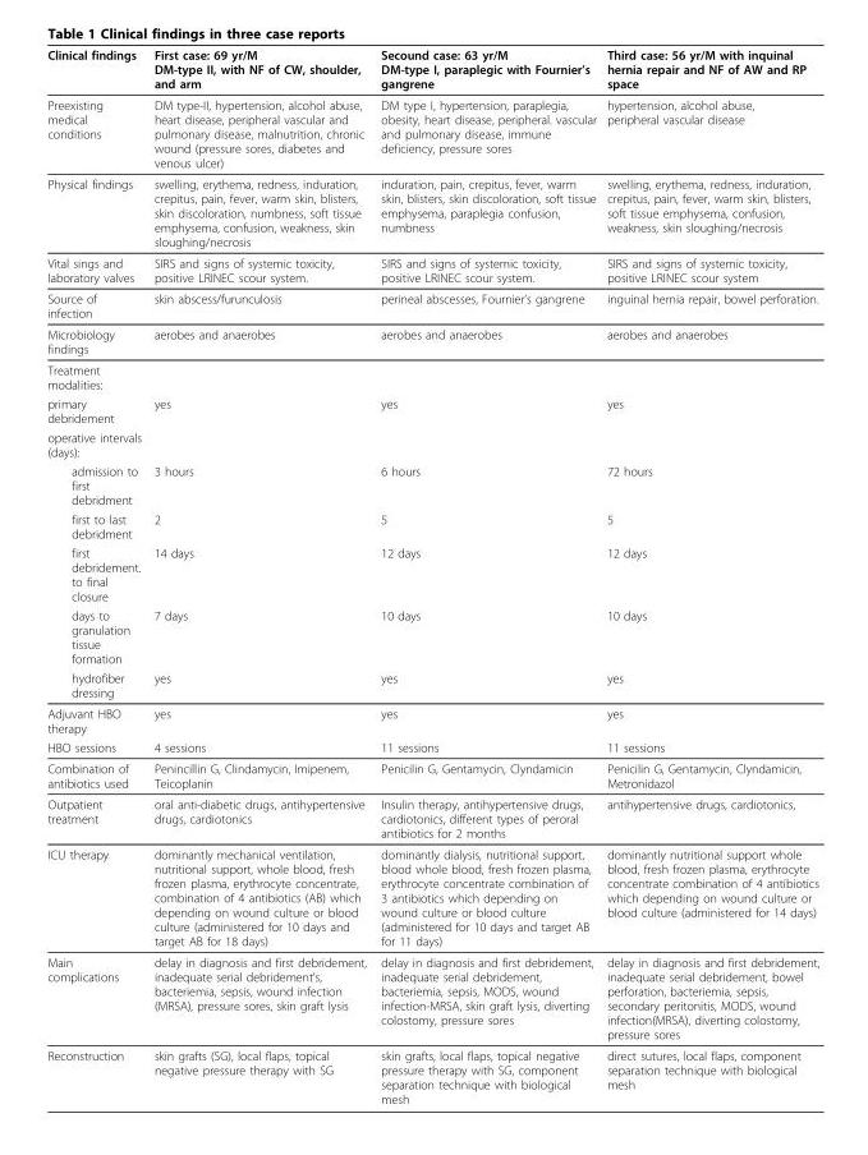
<table><thead><tr><td>Clinical findings</td><td>First case: 69 yr/M DM-type II, with NF of CW, shoulder, and arm</td><td>Secound case: 63 yr/M DM-type I, paraplegic with Fournier’s gangrene</td><td>Third case: 56 yr/M with inquinal hernia repair and NF of AW and RP space</td></tr></thead><tbody><tr><td>Preexisting medical conditions</td><td>DM type-II, hypertension, alcohol abuse, heart disease, peripheral vascular and pulmonary disease, malnutrition, chronic wound (pressure sores, diabetes and venous ulcer)</td><td>DM type I, hypertension, paraplegia, obesity, heart disease, peripheral. vascular and pulmonary disease, immune deficiency, pressure sores</td><td>hypertension, alcohol abuse, peripheral vascular disease</td></tr><tr><td>Physical findings</td><td>swelling, erythema, redness, induration, crepitus, pain, fever, warm skin, blisters, skin discoloration, numbness, soft tissue emphysema, confusion, weakness, skin sloughing/necrosis</td><td>induration, pain, crepitus, fever, warm skin, blisters, skin discoloration, soft tissue emphysema, paraplegia confusion, numbness</td><td>swelling, erythema, redness, induration, crepitus, pain, fever, warm skin, blisters, soft tissue emphysema, confusion, weakness, skin sloughing/necrosis</td></tr><tr><td>Vital sings and laboratory valves</td><td>SIRS and signs of systemic toxicity, positive LRINEC scour system.</td><td>SIRS and signs of systemic toxicity, positive LRINEC scour system.</td><td>SIRS and signs of systemic toxicity, positive LRINEC scour system</td></tr><tr><td>Source of infection</td><td>skin abscess/furunculosis</td><td>perineal abscesses, Fournier’s gangrene</td><td>inguinal hernia repair, bowel perforation.</td></tr><tr><td>Microbiology findings</td><td>aerobes and anaerobes</td><td>aerobes and anaerobes</td><td>aerobes and anaerobes</td></tr><tr><td colspan="4">Treatment modalities:</td></tr><tr><td>primary debridement</td><td>yes</td><td>yes</td><td>yes</td></tr><tr><td colspan="4">operative intervals (days):</td></tr><tr><td>admission to first debridment</td><td>3 hours</td><td>6 hours</td><td>72 hours</td></tr><tr><td>first to last debridment</td><td>2</td><td>5</td><td>5</td></tr><tr><td>first debridement. to final closure</td><td>14 days</td><td>12 days</td><td>12 days</td></tr><tr><td>days to granulation tissue formation</td><td>7 days</td><td>10 days</td><td>10 days</td></tr><tr><td>hydrofiber dressing</td><td>yes</td><td>yes</td><td>yes</td></tr><tr><td>Adjuvant HBO therapy</td><td>yes</td><td>yes</td><td>yes</td></tr><tr><td>HBO sessions</td><td>4 sessions</td><td>11 sessions</td><td>11 sessions</td></tr><tr><td>Combination of antibiotics used</td><td>Penincillin G, Clindamycin, Imipenem, Teicoplanin</td><td>Penicilin G, Gentamycin, Clyndamicin</td><td>Penicilin G, Gentamycin, Clyndamicin, Metronidazol</td></tr><tr><td>Outpatient treatment</td><td>oral anti-diabetic drugs, antihypertensive drugs, cardiotonics</td><td>Insulin therapy, antihypertensive drugs, cardiotonics, different types of peroral antibiotics for 2 months</td><td>antihypertensive drugs, cardiotonics,</td></tr><tr><td>ICU therapy</td><td>dominantly mechanical ventilation, nutritional support, whole blood, fresh frozen plasma, erythrocyte concentrate, combination of 4 antibiotics (AB) which depending on wound culture or blood culture (administered for 10 days and target AB for 18 days)</td><td>dominantly dialysis, nutritional support, blood whole blood, fresh frozen plasma, erythrocyte concentrate combination of 3 antibiotics which depending on wound culture or blood culture (administered for 10 days and target AB for 11 days)</td><td>dominantly nutritional support whole blood, fresh frozen plasma, erythrocyte concentrate combination of 4 antibiotics which depending on wound culture or blood culture (administered for 14 days)</td></tr><tr><td>Main complications</td><td>delay in diagnosis and first debridement, inadequate serial debridement’s, bacteriemia, sepsis, wound infection (MRSA), pressure sores, skin graft lysis</td><td>delay in diagnosis and first debridement, inadequate serial debridement, bacteriemia, sepsis, MODS, wound infection-MRSA, skin graft lysis, diverting colostomy, pressure sores</td><td>delay in diagnosis and first debridement, inadequate serial debridement, bowel perforation, bacteriemia, sepsis, secondary peritonitis, MODS, wound infection(MRSA), diverting colostomy, pressure sores</td></tr><tr><td>Reconstruction</td><td>skin grafts (SG), local flaps, topical negative pressure therapy with SG</td><td>skin grafts, local flaps, topical negative pressure therapy with SG, component separation technique with biological mesh</td><td>direct sutures, local flaps, component separation technique with biological mesh</td></tr></tbody></table>